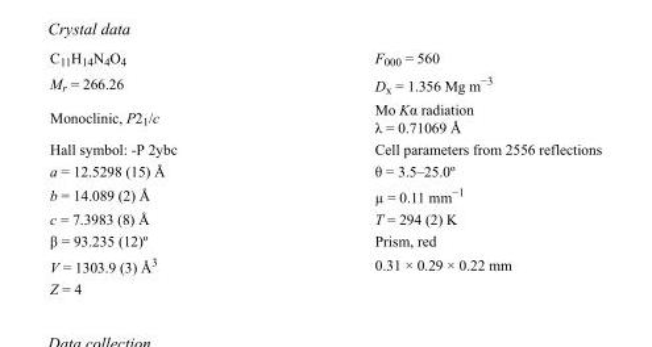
<table><tbody><tr><td>C<sub>11</sub>H<sub>14</sub>N<sub>4</sub>O<sub>4</sub></td><td>F<sub>000</sub> = 560</td></tr><tr><td>M<sub>r</sub> = 266.26</td><td>D<sub>x</sub> = 1.356 Mg m<sup>−3</sup></td></tr><tr><td>Monoclinic, P2<sub>1</sub>/c</td><td>Mo Kα radiation λ = 0.71069 Å</td></tr><tr><td>Hall symbol: -P 2ybc</td><td>Cell parameters from 2556 reflections</td></tr><tr><td>a = 12.5298 (15) Å</td><td>θ = 3.5–25.0º</td></tr><tr><td>b = 14.089 (2) Å</td><td>µ = 0.11 mm<sup>−1</sup></td></tr><tr><td>c = 7.3983 (8) Å</td><td>T = 294 (2) K</td></tr><tr><td>β = 93.235 (12)º</td><td>Prism, red</td></tr><tr><td>V = 1303.9 (3) Å<sup>3</sup></td><td>0.31 × 0.29 × 0.22 mm</td></tr><tr><td>Z = 4</td><td></td></tr></tbody></table>